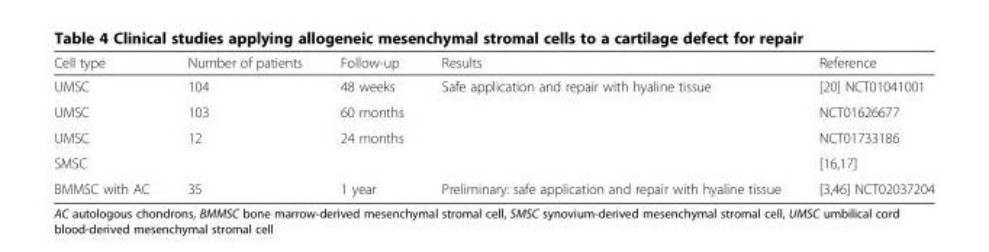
<table><thead><tr><td>Cell type</td><td>Number of patients</td><td>Follow-up</td><td>Results</td><td>Reference</td></tr></thead><tbody><tr><td>UMSC</td><td>104</td><td>48 weeks</td><td>Safe application and repair with hyaline tissue</td><td>[20] NCT01041001</td></tr><tr><td>UMSC</td><td>103</td><td>60 months</td><td></td><td>NCT01626677</td></tr><tr><td>UMSC</td><td>12</td><td>24 months</td><td></td><td>NCT01733186</td></tr><tr><td>SMSC</td><td></td><td></td><td></td><td>[16,17]</td></tr><tr><td>BMMSC with AC</td><td>35</td><td>1 year</td><td>Preliminary: safe application and repair with hyaline tissue</td><td>[3,46] NCT02037204</td></tr></tbody></table>